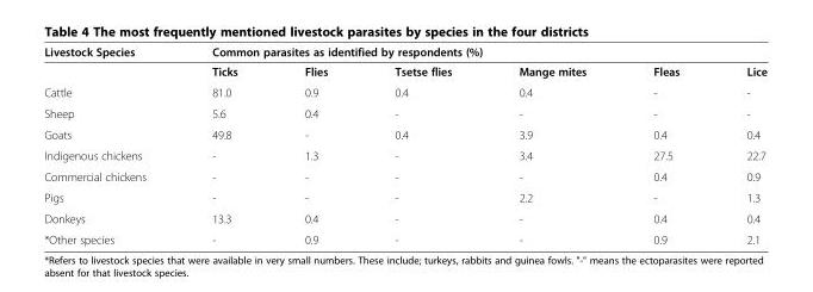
<table><thead><tr><td rowspan="2">Livestock Species</td><td colspan="6">Common parasites as identified by respondents (%)</td></tr><tr><td>Ticks</td><td>Flies</td><td>Tsetse flies</td><td>Mange mites</td><td>Fleas</td><td>Lice</td></tr></thead><tbody><tr><td>Cattle</td><td>81.0</td><td>0.9</td><td>0.4</td><td>0.4</td><td>-</td><td>-</td></tr><tr><td>Sheep</td><td>5.6</td><td>0.4</td><td>-</td><td>-</td><td>-</td><td>-</td></tr><tr><td>Goats</td><td>49.8</td><td>-</td><td>0.4</td><td>3.9</td><td>0.4</td><td>0.4</td></tr><tr><td>Indigenous chickens</td><td>-</td><td>1.3</td><td>-</td><td>3.4</td><td>27.5</td><td>22.7</td></tr><tr><td>Commercial chickens</td><td>-</td><td>-</td><td>-</td><td>-</td><td>0.4</td><td>0.9</td></tr><tr><td>Pigs</td><td>-</td><td>-</td><td>-</td><td>2.2</td><td>-</td><td>1.3</td></tr><tr><td>Donkeys</td><td>13.3</td><td>0.4</td><td>-</td><td>-</td><td>0.4</td><td>0.4</td></tr><tr><td>*Other species</td><td>-</td><td>0.9</td><td>-</td><td>-</td><td>0.9</td><td>2.1</td></tr></tbody></table>